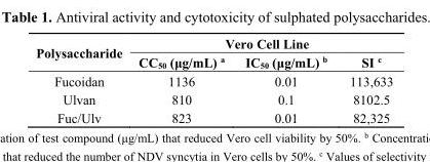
<table><thead><tr><td rowspan="2">Polysaccharide</td><td colspan="3">Vero Cell Line</td></tr><tr><td>CC<sub>50</sub> (μg/mL) <sup>a</sup></td><td>IC<sub>50</sub> (μg/mL) <sup>b</sup></td><td>SI <sup>c</sup></td></tr></thead><tbody><tr><td>Fucoidan</td><td>1136</td><td>0.01</td><td>113,633</td></tr><tr><td>Ulvan</td><td>810</td><td>0.1</td><td>8102.5</td></tr><tr><td>Fuc/Ulv</td><td>823</td><td>0.01</td><td>82,325</td></tr></tbody></table>